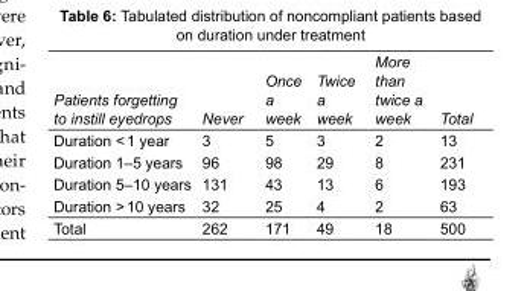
<table><tbody><tr><td>Patients forgetting to instill eyedrops</td><td>Never</td><td>Once a week</td><td>Twice a week</td><td>More than twice a week</td><td>Total</td></tr><tr><td>Duration &lt; 1 year</td><td>3</td><td>5</td><td>3</td><td>2</td><td>13</td></tr><tr><td>Duration 1–5 years</td><td>96</td><td>98</td><td>29</td><td>8</td><td>231</td></tr><tr><td>Duration 5–10 years</td><td>131</td><td>43</td><td>13</td><td>6</td><td>193</td></tr><tr><td>Duration &gt; 10 years</td><td>32</td><td>25</td><td>4</td><td>2</td><td>63</td></tr><tr><td>Total</td><td>262</td><td>171</td><td>49</td><td>18</td><td>500</td></tr></tbody></table>